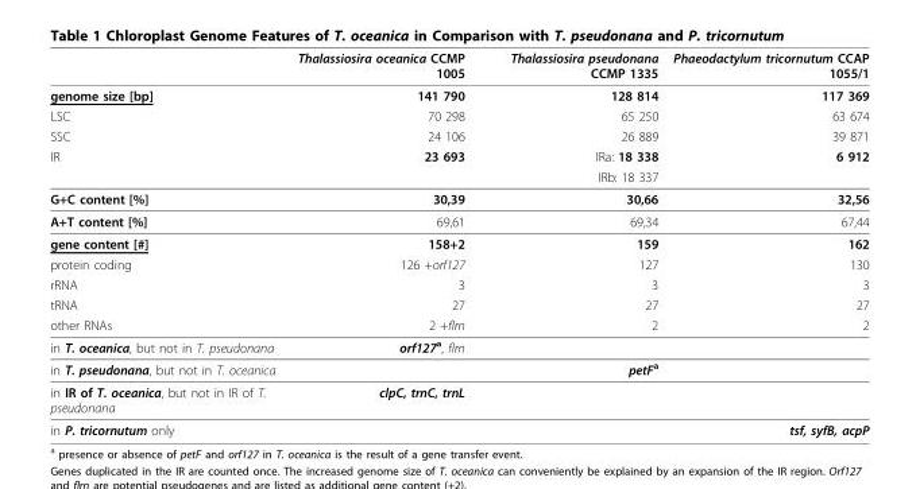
<table><thead><tr><td></td><td>Thalassiosira oceanica CCMP 1005</td><td>Thalassiosira pseudonana CCMP 1335</td><td>Phaeodactylum tricornutum CCAP 1055/1</td></tr></thead><tbody><tr><td>genome size [bp]</td><td>141 790</td><td>128 814</td><td>117 369</td></tr><tr><td>LSC</td><td>70 298</td><td>65 250</td><td>63 674</td></tr><tr><td>SSC</td><td>24 106</td><td>26 889</td><td>39 871</td></tr><tr><td rowspan="2">IR</td><td>23 693</td><td>IRa: 18 338</td><td>6 912</td></tr><tr><td></td><td>IRb: 18 337</td><td></td></tr><tr><td>G+C content [%]</td><td>30,39</td><td>30,66</td><td>32,56</td></tr><tr><td>A+T content [%]</td><td>69,61</td><td>69,34</td><td>67,44</td></tr><tr><td>gene content [#]</td><td>158+2</td><td>159</td><td>162</td></tr><tr><td>protein coding</td><td>126 +orf127</td><td>127</td><td>130</td></tr><tr><td>rRNA</td><td>3</td><td>3</td><td>3</td></tr><tr><td>tRNA</td><td>27</td><td>27</td><td>27</td></tr><tr><td>other RNAs</td><td>2 +flrn</td><td>2</td><td>2</td></tr><tr><td>in T. oceanica, but not in T. pseudonana</td><td>orf127<sup>a</sup>, flrn</td><td></td><td></td></tr><tr><td>in T. pseudonana, but not in T. oceanica</td><td></td><td>petF<sup>a</sup></td><td></td></tr><tr><td>in IR of T. oceanica, but not in IR of T. pseudonana</td><td>clpC, trnC, trnL</td><td></td><td></td></tr><tr><td>in P. tricornutum only</td><td></td><td></td><td>tsf, syfB, acpP</td></tr></tbody></table>